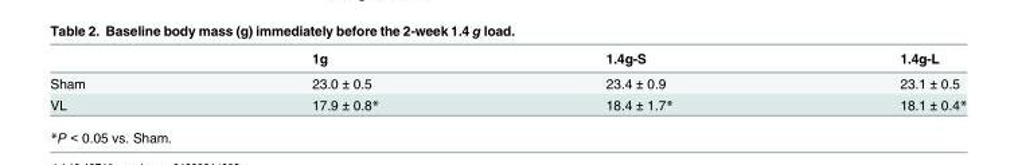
<table><thead><tr><td></td><td>1g</td><td>1.4g-S</td><td>1.4g-L</td></tr></thead><tbody><tr><td>Sham</td><td>23.0 ± 0.5</td><td>23.4 ± 0.9</td><td>23.1 ± 0.5</td></tr><tr><td>VL</td><td>17.9 ± 0.8*</td><td>18.4 ± 1.7*</td><td>18.1 ± 0.4*</td></tr></tbody></table>